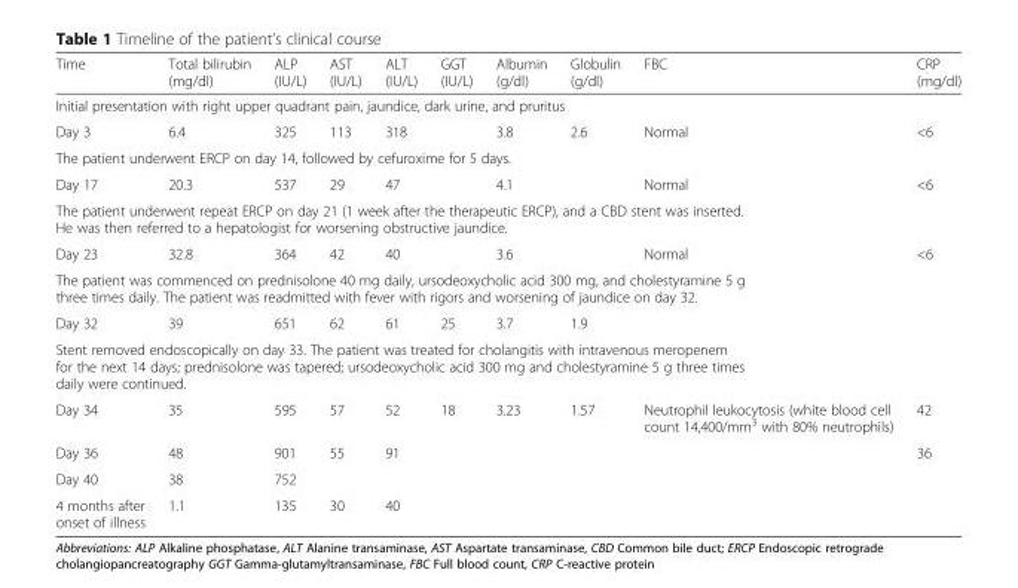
<table><thead><tr><td>Time</td><td>Total bilirubin (mg/dl)</td><td>ALP (IU/L)</td><td>AST (IU/L)</td><td>ALT (IU/L)</td><td>GGT (IU/L)</td><td>Albumin (g/dl)</td><td>Globulin (g/dl)</td><td>FBC</td><td>CRP (mg/dl)</td></tr></thead><tbody><tr><td colspan="10">Initial presentation with right upper quadrant pain, jaundice, dark urine, and pruritus</td></tr><tr><td>Day 3</td><td>6.4</td><td>325</td><td>113</td><td>318</td><td></td><td>3.8</td><td>2.6</td><td>Normal</td><td>&lt;6</td></tr><tr><td colspan="10">The patient underwent ERCP on day 14, followed by cefuroxime for 5 days.</td></tr><tr><td>Day 17</td><td>20.3</td><td>537</td><td>29</td><td>47</td><td></td><td>4.1</td><td></td><td>Normal</td><td>&lt;6</td></tr><tr><td colspan="10">The patient underwent repeat ERCP on day 21 (1 week after the therapeutic ERCP), and a CBD stent was inserted. He was then referred to a hepatologist for worsening obstructive jaundice.</td></tr><tr><td>Day 23</td><td>32.8</td><td>364</td><td>42</td><td>40</td><td></td><td>3.6</td><td></td><td>Normal</td><td>&lt;6</td></tr><tr><td colspan="10">The patient was commenced on prednisolone 40 mg daily, ursodeoxycholic acid 300 mg, and cholestyramine 5 g three times daily. The patient was readmitted with fever with rigors and worsening of jaundice on day 32.</td></tr><tr><td>Day 32</td><td>39</td><td>651</td><td>62</td><td>61</td><td>25</td><td>3.7</td><td>1.9</td><td></td><td></td></tr><tr><td colspan="10">Stent removed endoscopically on day 33. The patient was treated for cholangitis with intravenous meropenem for the next 14 days; prednisolone was tapered; ursodeoxycholic acid 300 mg and cholestyramine 5 g three times daily were continued.</td></tr><tr><td>Day 34</td><td>35</td><td>595</td><td>57</td><td>52</td><td>18</td><td>3.23</td><td>1.57</td><td>Neutrophil leukocytosis (white blood cell count 14,400/mm<sup>3</sup> with 80% neutrophils)</td><td>42</td></tr><tr><td>Day 36</td><td>48</td><td>901</td><td>55</td><td>91</td><td></td><td></td><td></td><td></td><td>36</td></tr><tr><td>Day 40</td><td>38</td><td>752</td><td></td><td></td><td></td><td></td><td></td><td></td><td></td></tr><tr><td>4 months after onset of illness</td><td>1.1</td><td>135</td><td>30</td><td>40</td><td></td><td></td><td></td><td></td><td></td></tr></tbody></table>